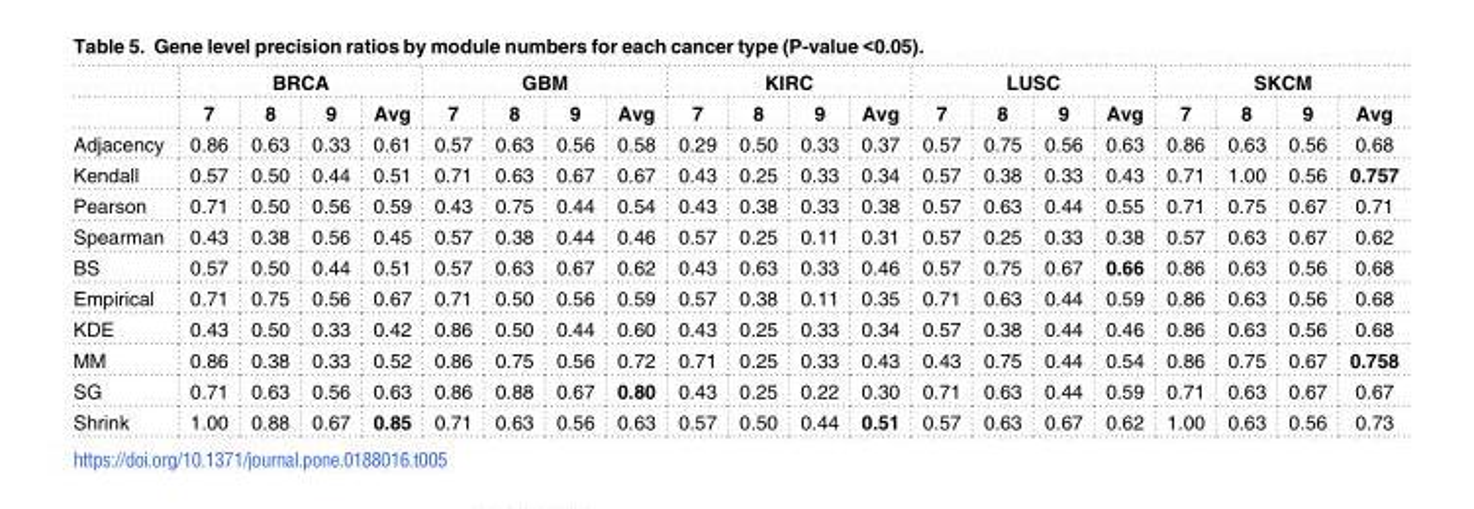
<table><thead><tr><td rowspan="2"></td><td colspan="4">BRCA</td><td colspan="4">GBM</td><td colspan="4">KIRC</td><td colspan="4">LUSC</td><td colspan="4">SKCM</td></tr><tr><td>7</td><td>8</td><td>9</td><td>Avg</td><td>7</td><td>8</td><td>9</td><td>Avg</td><td>7</td><td>8</td><td>9</td><td>Avg</td><td>7</td><td>8</td><td>9</td><td>Avg</td><td>7</td><td>8</td><td>9</td><td>Avg</td></tr></thead><tbody><tr><td>Adjacency</td><td>0.86</td><td>0.63</td><td>0.33</td><td>0.61</td><td>0.57</td><td>0.63</td><td>0.56</td><td>0.58</td><td>0.29</td><td>0.50</td><td>0.33</td><td>0.37</td><td>0.57</td><td>0.75</td><td>0.56</td><td>0.63</td><td>0.86</td><td>0.63</td><td>0.56</td><td>0.68</td></tr><tr><td>Kendall</td><td>0.57</td><td>0.50</td><td>0.44</td><td>0.51</td><td>0.71</td><td>0.63</td><td>0.67</td><td>0.67</td><td>0.43</td><td>0.25</td><td>0.33</td><td>0.34</td><td>0.57</td><td>0.38</td><td>0.33</td><td>0.43</td><td>0.71</td><td>1.00</td><td>0.56</td><td>0.757</td></tr><tr><td>Pearson</td><td>0.71</td><td>0.50</td><td>0.56</td><td>0.59</td><td>0.43</td><td>0.75</td><td>0.44</td><td>0.54</td><td>0.43</td><td>0.38</td><td>0.33</td><td>0.38</td><td>0.57</td><td>0.63</td><td>0.44</td><td>0.55</td><td>0.71</td><td>0.75</td><td>0.67</td><td>0.71</td></tr><tr><td>Spearman</td><td>0.43</td><td>0.38</td><td>0.56</td><td>0.45</td><td>0.57</td><td>0.38</td><td>0.44</td><td>0.46</td><td>0.57</td><td>0.25</td><td>0.11</td><td>0.31</td><td>0.57</td><td>0.25</td><td>0.33</td><td>0.38</td><td>0.57</td><td>0.63</td><td>0.67</td><td>0.62</td></tr><tr><td>BS</td><td>0.57</td><td>0.50</td><td>0.44</td><td>0.51</td><td>0.57</td><td>0.63</td><td>0.67</td><td>0.62</td><td>0.43</td><td>0.63</td><td>0.33</td><td>0.46</td><td>0.57</td><td>0.75</td><td>0.67</td><td>0.66</td><td>0.86</td><td>0.63</td><td>0.56</td><td>0.68</td></tr><tr><td>Empirical</td><td>0.71</td><td>0.75</td><td>0.56</td><td>0.67</td><td>0.71</td><td>0.50</td><td>0.56</td><td>0.59</td><td>0.57</td><td>0.38</td><td>0.11</td><td>0.35</td><td>0.71</td><td>0.63</td><td>0.44</td><td>0.59</td><td>0.86</td><td>0.63</td><td>0.56</td><td>0.68</td></tr><tr><td>KDE</td><td>0.43</td><td>0.50</td><td>0.33</td><td>0.42</td><td>0.86</td><td>0.50</td><td>0.44</td><td>0.60</td><td>0.43</td><td>0.25</td><td>0.33</td><td>0.34</td><td>0.57</td><td>0.38</td><td>0.44</td><td>0.46</td><td>0.86</td><td>0.63</td><td>0.56</td><td>0.68</td></tr><tr><td>MM</td><td>0.86</td><td>0.38</td><td>0.33</td><td>0.52</td><td>0.86</td><td>0.75</td><td>0.56</td><td>0.72</td><td>0.71</td><td>0.25</td><td>0.33</td><td>0.43</td><td>0.43</td><td>0.75</td><td>0.44</td><td>0.54</td><td>0.86</td><td>0.75</td><td>0.67</td><td>0.758</td></tr><tr><td>SG</td><td>0.71</td><td>0.63</td><td>0.56</td><td>0.63</td><td>0.86</td><td>0.88</td><td>0.67</td><td>0.80</td><td>0.43</td><td>0.25</td><td>0.22</td><td>0.30</td><td>0.71</td><td>0.63</td><td>0.44</td><td>0.59</td><td>0.71</td><td>0.63</td><td>0.67</td><td>0.67</td></tr><tr><td>Shrink</td><td>1.00</td><td>0.88</td><td>0.67</td><td>0.85</td><td>0.71</td><td>0.63</td><td>0.56</td><td>0.63</td><td>0.57</td><td>0.50</td><td>0.44</td><td>0.51</td><td>0.57</td><td>0.63</td><td>0.67</td><td>0.62</td><td>1.00</td><td>0.63</td><td>0.56</td><td>0.73</td></tr></tbody></table>